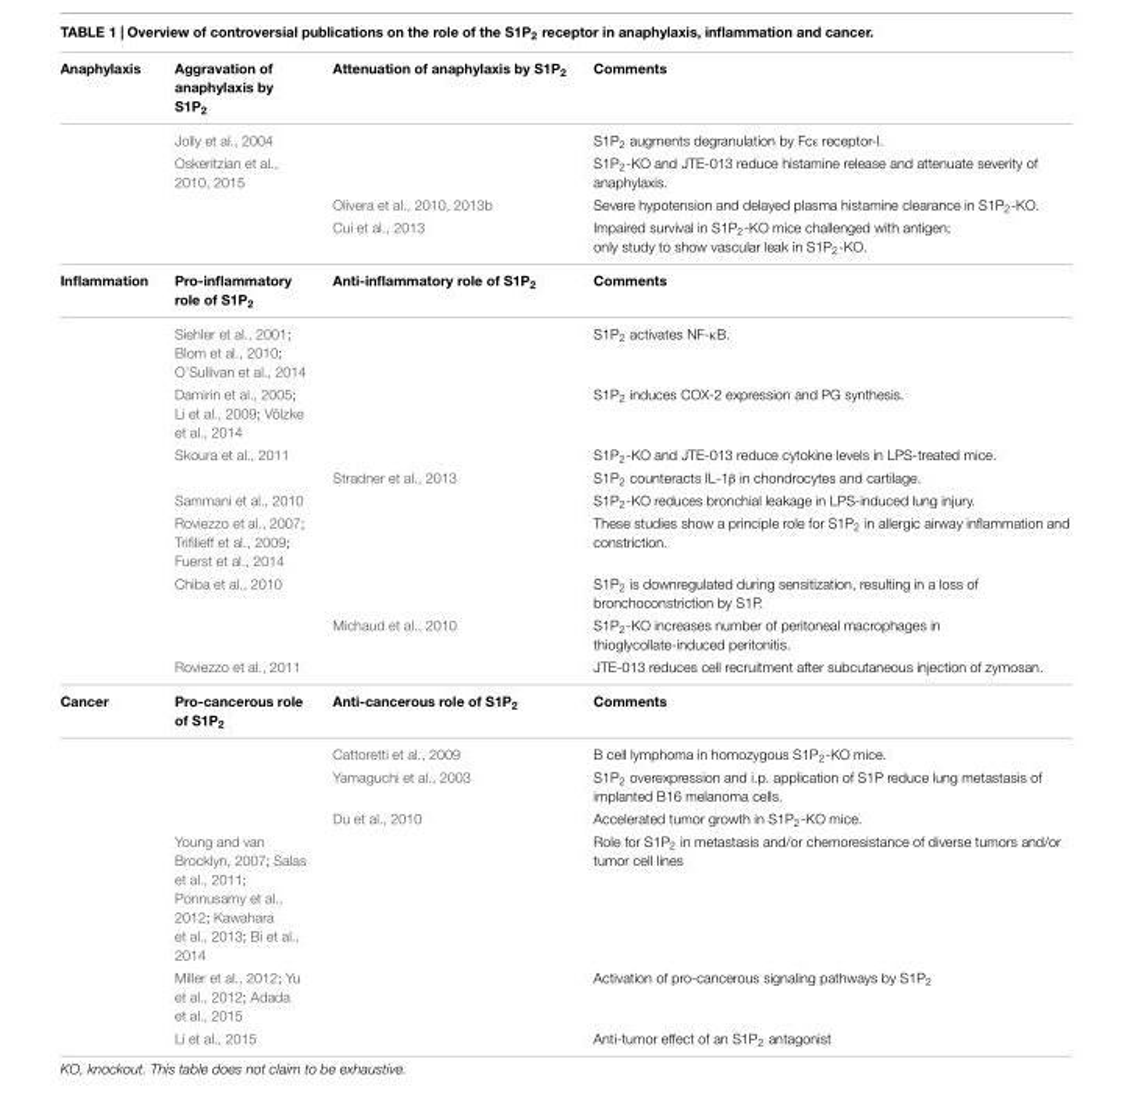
<table><thead><tr><td>Anaphylaxis</td><td>Aggravation of anaphylaxis by S1P<sub>2</sub></td><td>Attenuation of anaphylaxis by S1P<sub>2</sub></td><td>Comments</td></tr></thead><tbody><tr><td></td><td>Jolly et al., 2004</td><td></td><td>S1P<sub>2</sub> augments degranulation by Fcε receptor-I.</td></tr><tr><td></td><td>Oskeritzian et al., 2010, 2015</td><td></td><td>S1P<sub>2</sub>-KO and JTE-013 reduce histamine release and attenuate severity of anaphylaxis.</td></tr><tr><td></td><td></td><td>Olivera et al., 2010, 2013b</td><td>Severe hypotension and delayed plasma histamine clearance in S1P<sub>2</sub>-KO.</td></tr><tr><td></td><td></td><td>Cui et al., 2013</td><td>Impaired survival in S1P<sub>2</sub>-KO mice challenged with antigen; only study to show vascular leak in S1P<sub>2</sub>-KO.</td></tr><tr><td rowspan="10">Inflammation</td><td>Pro-inflammatory role of S1P<sub>2</sub></td><td>Anti-inflammatory role of S1P<sub>2</sub></td><td>Comments</td></tr><tr><td>Siehler et al., 2001; Blom et al., 2010; O’Sullivan et al., 2014</td><td></td><td>S1P<sub>2</sub> activates NF-κB.</td></tr><tr><td>Damirin et al., 2005; Li et al., 2009; Völzke et al., 2014</td><td></td><td>S1P<sub>2</sub> induces COX-2 expression and PG synthesis.</td></tr><tr><td>Skoura et al., 2011</td><td></td><td>S1P<sub>2</sub>-KO and JTE-013 reduce cytokine levels in LPS-treated mice.</td></tr><tr><td></td><td>Stradner et al., 2013</td><td>S1P<sub>2</sub> counteracts IL-1β in chondrocytes and cartilage.</td></tr><tr><td>Sammani et al., 2010</td><td></td><td>S1P<sub>2</sub>-KO reduces bronchial leakage in LPS-induced lung injury.</td></tr><tr><td>Roviezzo et al., 2007; Trifilieff et al., 2009; Fuerst et al., 2014</td><td></td><td>These studies show a principle role for S1P<sub>2</sub> in allergic airway inflammation and constriction.</td></tr><tr><td>Chiba et al., 2010</td><td></td><td>S1P<sub>2</sub> is downregulated during sensitization, resulting in a loss of bronchoconstriction by S1P.</td></tr><tr><td></td><td>Michaud et al., 2010</td><td>S1P<sub>2</sub>-KO increases number of peritoneal macrophages in thioglycollate-induced peritonitis.</td></tr><tr><td>Roviezzo et al., 2011</td><td></td><td>JTE-013 reduces cell recruitment after subcutaneous injection of zymosan.</td></tr><tr><td rowspan="7">Cancer</td><td>Pro-cancerous role of S1P<sub>2</sub></td><td>Anti-cancerous role of S1P<sub>2</sub></td><td>Comments</td></tr><tr><td></td><td>Cattoretti et al., 2009</td><td>B cell lymphoma in homozygous S1P<sub>2</sub>-KO mice.</td></tr><tr><td></td><td>Yamaguchi et al., 2003</td><td>S1P<sub>2</sub> overexpression and i.p. application of S1P reduce lung metastasis of implanted B16 melanoma cells.</td></tr><tr><td></td><td>Du et al., 2010</td><td>Accelerated tumor growth in S1P<sub>2</sub>-KO mice.</td></tr><tr><td>Young and van Brocklyn, 2007; Salas et al., 2011; Ponnusamy et al., 2012; Kawahara et al., 2013; Bi et al., 2014</td><td></td><td>Role for S1P<sub>2</sub> in metastasis and/or chemoresistance of diverse tumors and/or tumor cell lines</td></tr><tr><td>Miller et al., 2012; Yu et al., 2012; Adada et al., 2015</td><td></td><td>Activation of pro-cancerous signaling pathways by S1P<sub>2</sub></td></tr><tr><td>Li et al., 2015</td><td></td><td>Anti-tumor effect of an S1P<sub>2</sub> antagonist</td></tr></tbody></table>